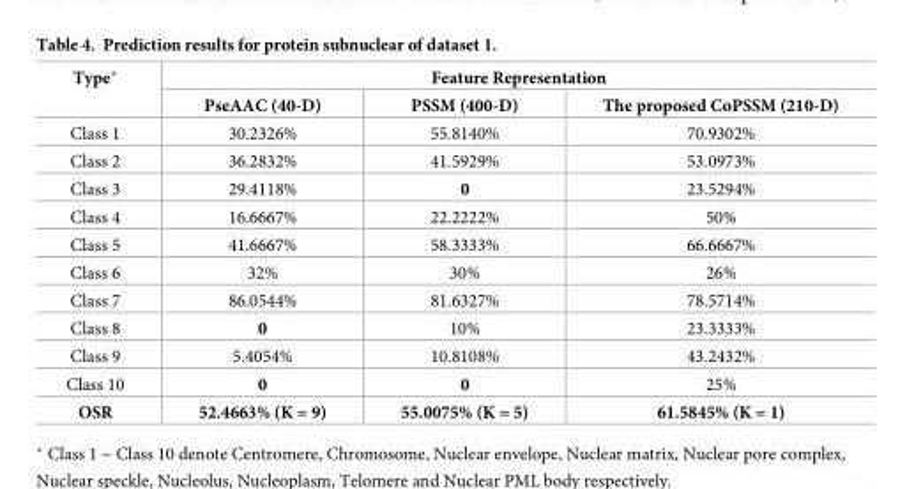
<table><thead><tr><td rowspan="2">Type*</td><td colspan="3">Feature Representation</td></tr><tr><td>PseAAC (40-D)</td><td>PSSM (400-D)</td><td>The proposed CoPSSM (210-D)</td></tr></thead><tbody><tr><td>Class 1</td><td>30.2326%</td><td>55.8140%</td><td>70.9302%</td></tr><tr><td>Class 2</td><td>36.2832%</td><td>41.5929%</td><td>53.0973%</td></tr><tr><td>Class 3</td><td>29.4118%</td><td>0</td><td>23.5294%</td></tr><tr><td>Class 4</td><td>16.6667%</td><td>22.2222%</td><td>50%</td></tr><tr><td>Class 5</td><td>41.6667%</td><td>58.3333%</td><td>66.6667%</td></tr><tr><td>Class 6</td><td>32%</td><td>30%</td><td>26%</td></tr><tr><td>Class 7</td><td>86.0544%</td><td>81.6327%</td><td>78.5714%</td></tr><tr><td>Class 8</td><td>0</td><td>10%</td><td>23.3333%</td></tr><tr><td>Class 9</td><td>5.4054%</td><td>10.8108%</td><td>43.2432%</td></tr><tr><td>Class 10</td><td>0</td><td>0</td><td>25%</td></tr><tr><td>OSR</td><td>52.4663% (K = 9)</td><td>55.0075% (K = 5)</td><td>61.5845% (K = 1)</td></tr></tbody></table>